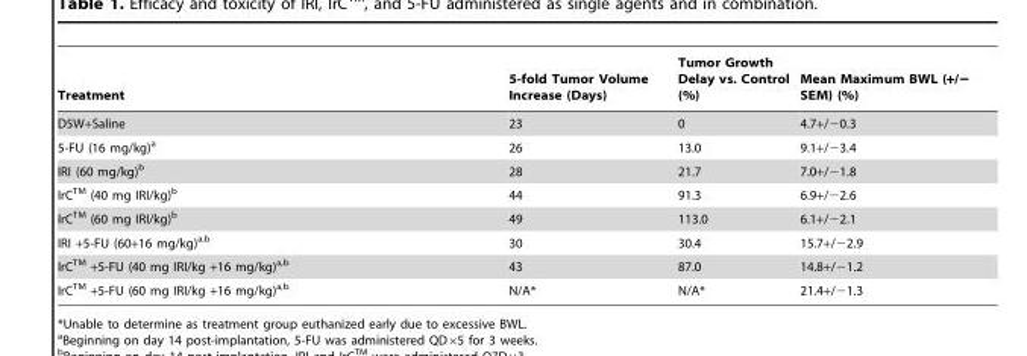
<table><thead><tr><td>Treatment</td><td>5-fold Tumor Volume Increase (Days)</td><td>Tumor Growth Delay vs. Control (%)</td><td>Mean Maximum BWL (+/− SEM) (%)</td></tr></thead><tbody><tr><td>D5W+Saline</td><td>23</td><td>0</td><td>4.7+/−0.3</td></tr><tr><td>5-FU (16 mg/kg)<sup>a</sup></td><td>26</td><td>13.0</td><td>9.1+/−3.4</td></tr><tr><td>IRI (60 mg/kg)<sup>b</sup></td><td>28</td><td>21.7</td><td>7.0+/−1.8</td></tr><tr><td>IrCTM (40 mg IRI/kg)<sup>b</sup></td><td>44</td><td>91.3</td><td>6.9+/−2.6</td></tr><tr><td>IrCTM (60 mg IRI/kg)<sup>b</sup></td><td>49</td><td>113.0</td><td>6.1+/−2.1</td></tr><tr><td>IRI +5-FU (60+16 mg/kg)a,b</td><td>30</td><td>30.4</td><td>15.7+/−2.9</td></tr><tr><td>IrCTM +5-FU (40 mg IRI/kg +16 mg/kg)a,b</td><td>43</td><td>87.0</td><td>14.8+/−1.2</td></tr><tr><td>IrCTM +5-FU (60 mg IRI/kg +16 mg/kg)a,b</td><td>N/A*</td><td>N/A*</td><td>21.4+/−1.3</td></tr></tbody></table>